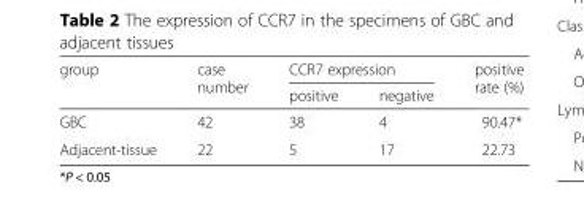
<table><thead><tr><td rowspan="2">group</td><td rowspan="2">case number</td><td colspan="2">CCR7 expression</td><td rowspan="2">positive rate (%)</td></tr><tr><td>positive</td><td>negative</td></tr></thead><tbody><tr><td>GBC</td><td>42</td><td>38</td><td>4</td><td>90.47*</td></tr><tr><td>Adjacent-tissue</td><td>22</td><td>5</td><td>17</td><td>22.73</td></tr></tbody></table>